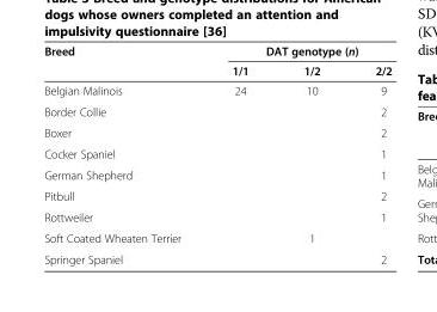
<table><thead><tr><td rowspan="2">Breed</td><td colspan="3">DAT genotype (n)</td></tr><tr><td>1/1</td><td>1/2</td><td>2/2</td></tr></thead><tbody><tr><td>Belgian Malinois</td><td>24</td><td>10</td><td>9</td></tr><tr><td>Border Collie</td><td></td><td></td><td>2</td></tr><tr><td>Boxer</td><td></td><td></td><td>2</td></tr><tr><td>Cocker Spaniel</td><td></td><td></td><td>1</td></tr><tr><td>German Shepherd</td><td></td><td></td><td>1</td></tr><tr><td>Pitbull</td><td></td><td></td><td>2</td></tr><tr><td>Rottweiler</td><td></td><td></td><td>1</td></tr><tr><td>Soft Coated Wheaten Terrier</td><td></td><td>1</td><td></td></tr><tr><td>Springer Spaniel</td><td></td><td></td><td>2</td></tr></tbody></table>